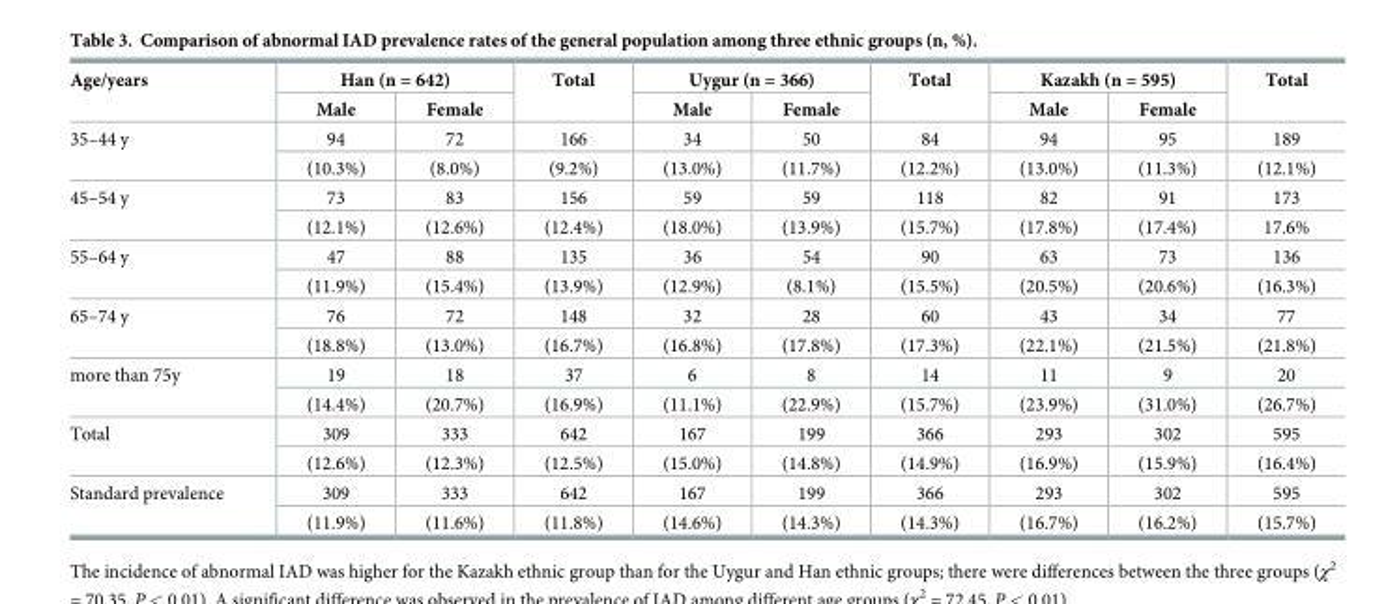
<table><thead><tr><td rowspan="2">Age/years</td><td colspan="2">Han (n = 642)</td><td rowspan="2">Total</td><td colspan="2">Uygur (n = 366)</td><td rowspan="2">Total</td><td colspan="2">Kazakh (n = 595)</td><td rowspan="2">Total</td></tr><tr><td>Male</td><td>Female</td><td>Male</td><td>Female</td><td>Male</td><td>Female</td></tr></thead><tbody><tr><td rowspan="2">35–44 y</td><td>94</td><td>72</td><td>166</td><td>34</td><td>50</td><td>84</td><td>94</td><td>95</td><td>189</td></tr><tr><td>(10.3%)</td><td>(8.0%)</td><td>(9.2%)</td><td>(13.0%)</td><td>(11.7%)</td><td>(12.2%)</td><td>(13.0%)</td><td>(11.3%)</td><td>(12.1%)</td></tr><tr><td rowspan="2">45–54 y</td><td>73</td><td>83</td><td>156</td><td>59</td><td>59</td><td>118</td><td>82</td><td>91</td><td>173</td></tr><tr><td>(12.1%)</td><td>(12.6%)</td><td>(12.4%)</td><td>(18.0%)</td><td>(13.9%)</td><td>(15.7%)</td><td>(17.8%)</td><td>(17.4%)</td><td>17.6%</td></tr><tr><td rowspan="2">55–64 y</td><td>47</td><td>88</td><td>135</td><td>36</td><td>54</td><td>90</td><td>63</td><td>73</td><td>136</td></tr><tr><td>(11.9%)</td><td>(15.4%)</td><td>(13.9%)</td><td>(12.9%)</td><td>(8.1%)</td><td>(15.5%)</td><td>(20.5%)</td><td>(20.6%)</td><td>(16.3%)</td></tr><tr><td rowspan="2">65–74 y</td><td>76</td><td>72</td><td>148</td><td>32</td><td>28</td><td>60</td><td>43</td><td>34</td><td>77</td></tr><tr><td>(18.8%)</td><td>(13.0%)</td><td>(16.7%)</td><td>(16.8%)</td><td>(17.8%)</td><td>(17.3%)</td><td>(22.1%)</td><td>(21.5%)</td><td>(21.8%)</td></tr><tr><td rowspan="2">more than 75y</td><td>19</td><td>18</td><td>37</td><td>6</td><td>8</td><td>14</td><td>11</td><td>9</td><td>20</td></tr><tr><td>(14.4%)</td><td>(20.7%)</td><td>(16.9%)</td><td>(11.1%)</td><td>(22.9%)</td><td>(15.7%)</td><td>(23.9%)</td><td>(31.0%)</td><td>(26.7%)</td></tr><tr><td rowspan="2">Total</td><td>309</td><td>333</td><td>642</td><td>167</td><td>199</td><td>366</td><td>293</td><td>302</td><td>595</td></tr><tr><td>(12.6%)</td><td>(12.3%)</td><td>(12.5%)</td><td>(15.0%)</td><td>(14.8%)</td><td>(14.9%)</td><td>(16.9%)</td><td>(15.9%)</td><td>(16.4%)</td></tr><tr><td rowspan="2">Standard prevalence</td><td>309</td><td>333</td><td>642</td><td>167</td><td>199</td><td>366</td><td>293</td><td>302</td><td>595</td></tr><tr><td>(11.9%)</td><td>(11.6%)</td><td>(11.8%)</td><td>(14.6%)</td><td>(14.3%)</td><td>(14.3%)</td><td>(16.7%)</td><td>(16.2%)</td><td>(15.7%)</td></tr></tbody></table>